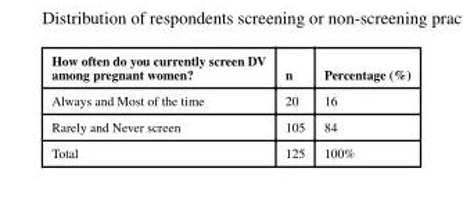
<table><thead><tr><td>How often do you currently screen DV among pregnant women?</td><td>n</td><td>Percentage (%)</td></tr></thead><tbody><tr><td>Always and Most of the time</td><td>20</td><td>16</td></tr><tr><td>Rarely and Never screen</td><td>105</td><td>84</td></tr><tr><td>Total</td><td>125</td><td>100%</td></tr></tbody></table>